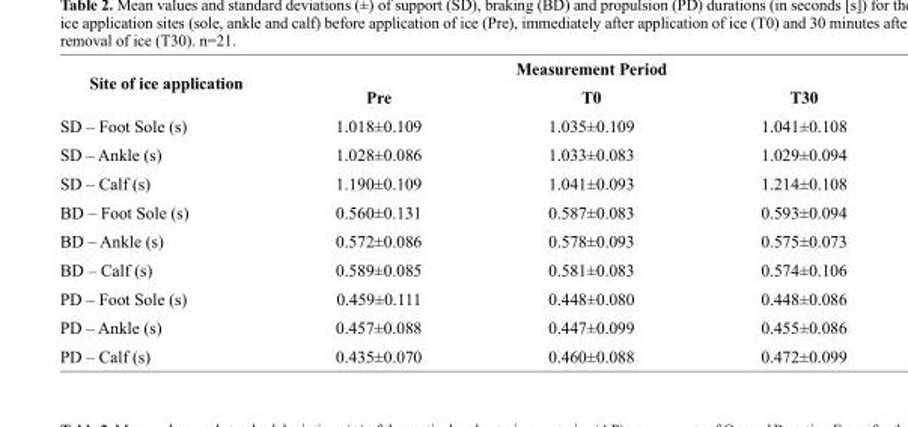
<table><thead><tr><td rowspan="2">Site of ice application</td><td colspan="3">Measurement Period</td></tr><tr><td>Pre</td><td>T0</td><td>T30</td></tr></thead><tbody><tr><td>SD – Foot Sole (s)</td><td>1.018±0.109</td><td>1.035±0.109</td><td>1.041±0.108</td></tr><tr><td>SD – Ankle (s)</td><td>1.028±0.086</td><td>1.033±0.083</td><td>1.029±0.094</td></tr><tr><td>SD – Calf (s)</td><td>1.190±0.109</td><td>1.041±0.093</td><td>1.214±0.108</td></tr><tr><td>BD – Foot Sole (s)</td><td>0.560±0.131</td><td>0.587±0.083</td><td>0.593±0.094</td></tr><tr><td>BD – Ankle (s)</td><td>0.572±0.086</td><td>0.578±0.093</td><td>0.575±0.073</td></tr><tr><td>BD – Calf (s)</td><td>0.589±0.085</td><td>0.581±0.083</td><td>0.574±0.106</td></tr><tr><td>PD – Foot Sole (s)</td><td>0.459±0.111</td><td>0.448±0.080</td><td>0.448±0.086</td></tr><tr><td>PD – Ankle (s)</td><td>0.457±0.088</td><td>0.447±0.099</td><td>0.455±0.086</td></tr><tr><td>PD – Calf (s)</td><td>0.435±0.070</td><td>0.460±0.088</td><td>0.472±0.099</td></tr></tbody></table>